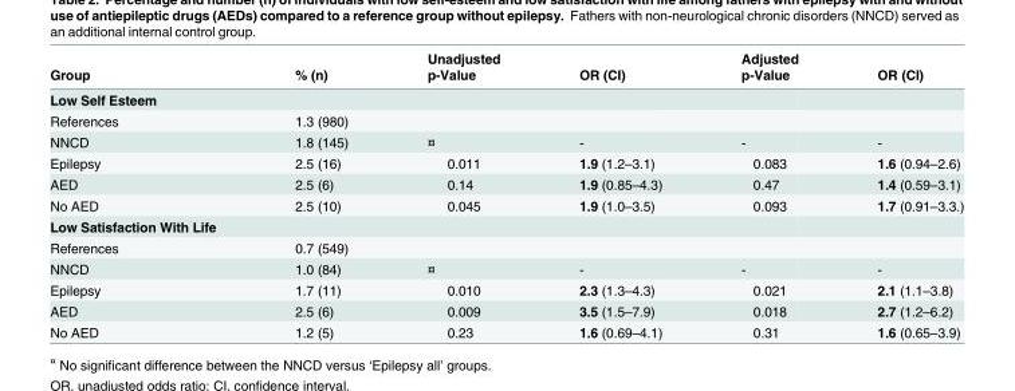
<table><thead><tr><td rowspan="2">Group</td><td rowspan="2">% (n)</td><td rowspan="2">Unadjusted p-Value</td><td rowspan="2">OR (CI)</td><td rowspan="2">Adjusted p-Value</td><td rowspan="2">OR (CI)</td></tr><tr></tr></thead><tbody><tr><td colspan="6">Low Self Esteem</td></tr><tr><td>References</td><td>1.3 (980)</td><td></td><td></td><td></td><td></td></tr><tr><td>NNCD</td><td>1.8 (145)</td><td>¤</td><td>-</td><td>-</td><td>-</td></tr><tr><td>Epilepsy</td><td>2.5 (16)</td><td>0.011</td><td>1.9 (1.2–3.1)</td><td>0.083</td><td>1.6 (0.94–2.6)</td></tr><tr><td>AED</td><td>2.5 (6)</td><td>0.14</td><td>1.9 (0.85–4.3)</td><td>0.47</td><td>1.4 (0.59–3.1)</td></tr><tr><td>No AED</td><td>2.5 (10)</td><td>0.045</td><td>1.9 (1.0–3.5)</td><td>0.093</td><td>1.7 (0.91–3.3.)</td></tr><tr><td colspan="6">Low Satisfaction With Life</td></tr><tr><td>References</td><td>0.7 (549)</td><td></td><td></td><td></td><td></td></tr><tr><td>NNCD</td><td>1.0 (84)</td><td>¤</td><td>-</td><td>-</td><td>-</td></tr><tr><td>Epilepsy</td><td>1.7 (11)</td><td>0.010</td><td>2.3 (1.3–4.3)</td><td>0.021</td><td>2.1 (1.1–3.8)</td></tr><tr><td>AED</td><td>2.5 (6)</td><td>0.009</td><td>3.5 (1.5–7.9)</td><td>0.018</td><td>2.7 (1.2–6.2)</td></tr><tr><td>No AED</td><td>1.2 (5)</td><td>0.23</td><td>1.6 (0.69–4.1)</td><td>0.31</td><td>1.6 (0.65–3.9)</td></tr></tbody></table>